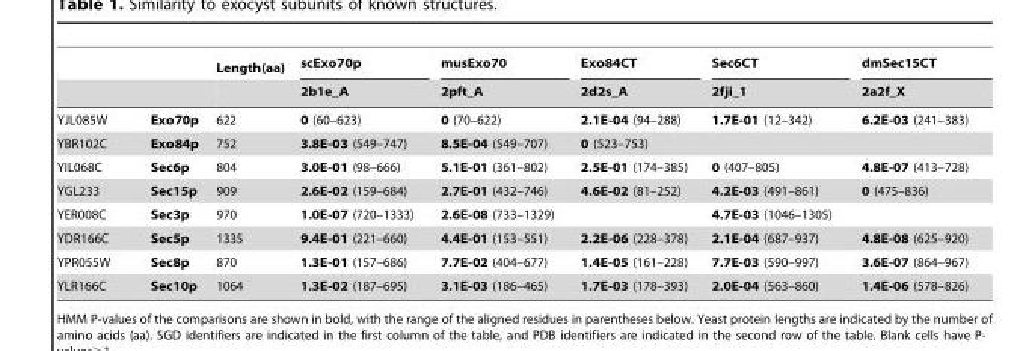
<table><thead><tr><td rowspan="2"></td><td rowspan="2"></td><td rowspan="2">Length(aa)</td><td rowspan="2">scExo70p 2b1e_A</td><td rowspan="2">musExo70 2pft_A</td><td rowspan="2">Exo84CT 2d2s_A</td><td rowspan="2">Sec6CT 2fji_1</td><td rowspan="2">dmSec15CT 2a2f_X</td></tr><tr></tr></thead><tbody><tr><td>YJL085W</td><td>Exo70p</td><td>622</td><td>0 (60–623)</td><td>0 (70–622)</td><td>2.1E-04 (94–288)</td><td>1.7E-01 (12–342)</td><td>6.2E-03 (241–383)</td></tr><tr><td>YBR102C</td><td>Exo84p</td><td>752</td><td>3.8E-03 (549–747)</td><td>8.5E-04 (549–707)</td><td>0 (523–753)</td><td></td><td></td></tr><tr><td>YIL068C</td><td>Sec6p</td><td>804</td><td>3.0E-01 (98–666)</td><td>5.1E-01 (361–802)</td><td>2.5E-01 (174–385)</td><td>0 (407–805)</td><td>4.8E-07 (413–728)</td></tr><tr><td>YGL233</td><td>Sec15p</td><td>909</td><td>2.6E-02 (159–684)</td><td>2.7E-01 (432–746)</td><td>4.6E-02 (81–252)</td><td>4.2E-03 (491–861)</td><td>0 (475–836)</td></tr><tr><td>YER008C</td><td>Sec3p</td><td>970</td><td>1.0E-07 (720–1333)</td><td>2.6E-08 (733–1329)</td><td></td><td>4.7E-03 (1046–1305)</td><td></td></tr><tr><td>YDR166C</td><td>Sec5p</td><td>1335</td><td>9.4E-01 (221–660)</td><td>4.4E-01 (153–551)</td><td>2.2E-06 (228–378)</td><td>2.1E-04 (687–937)</td><td>4.8E-08 (625–920)</td></tr><tr><td>YPR055W</td><td>Sec8p</td><td>870</td><td>1.3E-01 (157–686)</td><td>7.7E-02 (404–677)</td><td>1.4E-05 (161–228)</td><td>7.7E-03 (590–997)</td><td>3.6E-07 (864–967)</td></tr><tr><td>YLR166C</td><td>Sec10p</td><td>1064</td><td>1.3E-02 (187–695)</td><td>3.1E-03 (186–465)</td><td>1.7E-03 (178–393)</td><td>2.0E-04 (563–860)</td><td>1.4E-06 (578–826)</td></tr></tbody></table>